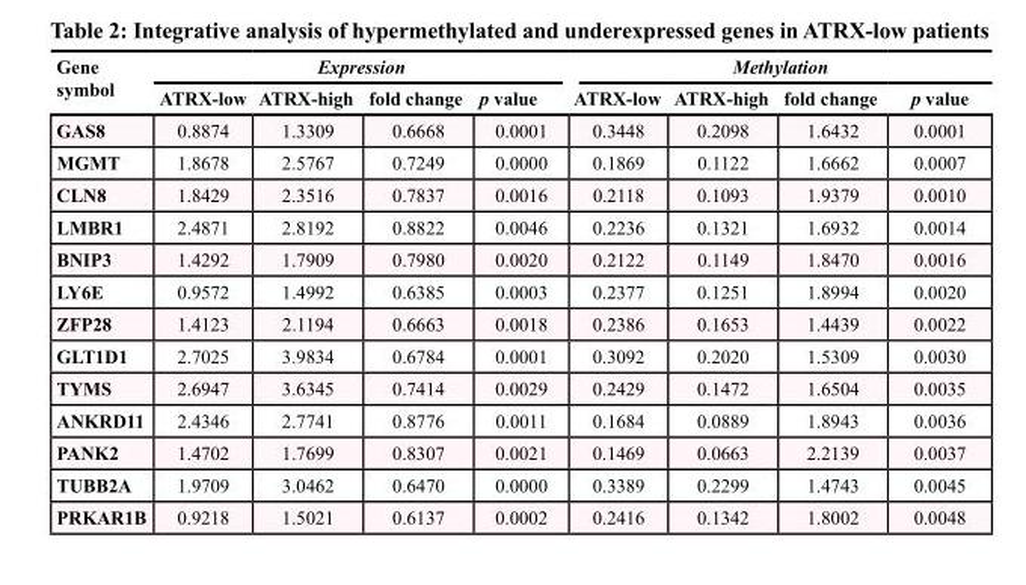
<table><thead><tr><td rowspan="2">Gene symbol</td><td colspan="4">Expression</td><td colspan="4">Methylation</td></tr><tr><td>ATRX-low</td><td>ATRX-high</td><td>fold change</td><td>p value</td><td>ATRX-low</td><td>ATRX-high</td><td>fold change</td><td>p value</td></tr></thead><tbody><tr><td>GAS8</td><td>0.8874</td><td>1.3309</td><td>0.6668</td><td>0.0001</td><td>0.3448</td><td>0.2098</td><td>1.6432</td><td>0.0001</td></tr><tr><td>MGMT</td><td>1.8678</td><td>2.5767</td><td>0.7249</td><td>0.0000</td><td>0.1869</td><td>0.1122</td><td>1.6662</td><td>0.0007</td></tr><tr><td>CLN8</td><td>1.8429</td><td>2.3516</td><td>0.7837</td><td>0.0016</td><td>0.2118</td><td>0.1093</td><td>1.9379</td><td>0.0010</td></tr><tr><td>LMBR1</td><td>2.4871</td><td>2.8192</td><td>0.8822</td><td>0.0046</td><td>0.2236</td><td>0.1321</td><td>1.6932</td><td>0.0014</td></tr><tr><td>BNIP3</td><td>1.4292</td><td>1.7909</td><td>0.7980</td><td>0.0020</td><td>0.2122</td><td>0.1149</td><td>1.8470</td><td>0.0016</td></tr><tr><td>LY6E</td><td>0.9572</td><td>1.4992</td><td>0.6385</td><td>0.0003</td><td>0.2377</td><td>0.1251</td><td>1.8994</td><td>0.0020</td></tr><tr><td>ZFP28</td><td>1.4123</td><td>2.1194</td><td>0.6663</td><td>0.0018</td><td>0.2386</td><td>0.1653</td><td>1.4439</td><td>0.0022</td></tr><tr><td>GLT1D1</td><td>2.7025</td><td>3.9834</td><td>0.6784</td><td>0.0001</td><td>0.3092</td><td>0.2020</td><td>1.5309</td><td>0.0030</td></tr><tr><td>TYMS</td><td>2.6947</td><td>3.6345</td><td>0.7414</td><td>0.0029</td><td>0.2429</td><td>0.1472</td><td>1.6504</td><td>0.0035</td></tr><tr><td>ANKRD11</td><td>2.4346</td><td>2.7741</td><td>0.8776</td><td>0.0011</td><td>0.1684</td><td>0.0889</td><td>1.8943</td><td>0.0036</td></tr><tr><td>PANK2</td><td>1.4702</td><td>1.7699</td><td>0.8307</td><td>0.0021</td><td>0.1469</td><td>0.0663</td><td>2.2139</td><td>0.0037</td></tr><tr><td>TUBB2A</td><td>1.9709</td><td>3.0462</td><td>0.6470</td><td>0.0000</td><td>0.3389</td><td>0.2299</td><td>1.4743</td><td>0.0045</td></tr><tr><td>PRKAR1B</td><td>0.9218</td><td>1.5021</td><td>0.6137</td><td>0.0002</td><td>0.2416</td><td>0.1342</td><td>1.8002</td><td>0.0048</td></tr></tbody></table>